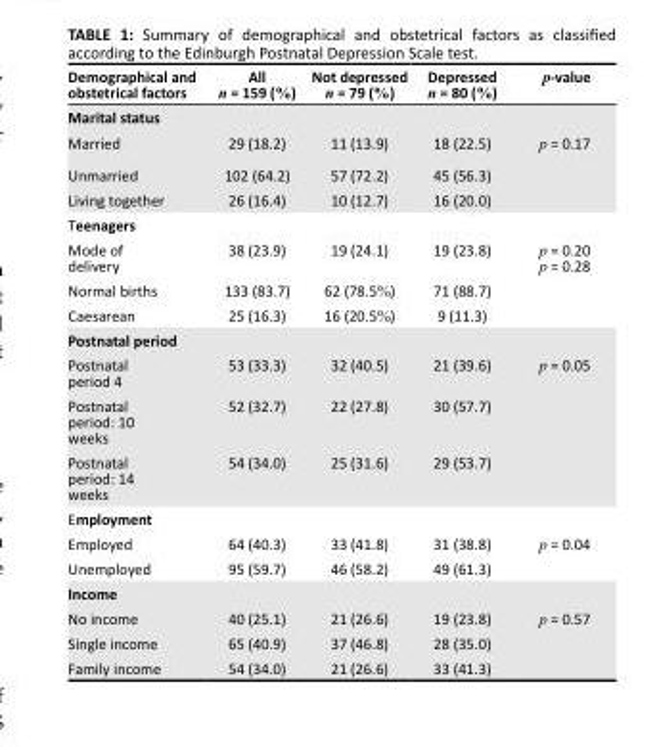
<table><thead><tr><td>Demographical and obstetrical factors</td><td>All n = 159 (%)</td><td>Not depressed n = 79 (%)</td><td>Depressed n = 80 (%)</td><td>p-value</td></tr></thead><tbody><tr><td colspan="5">Marital status</td></tr><tr><td>Married</td><td>29 (18.2)</td><td>11 (13.9)</td><td>18 (22.5)</td><td>p = 0.17</td></tr><tr><td>Unmarried</td><td>102 (64.2)</td><td>57 (72.2)</td><td>45 (56.3)</td><td></td></tr><tr><td>Living together</td><td>26 (16.4)</td><td>10 (12.7)</td><td>16 (20.0)</td><td></td></tr><tr><td colspan="5">Teenagers</td></tr><tr><td>Mode of delivery</td><td>38 (23.9)</td><td>19 (24.1)</td><td>19 (23.8)</td><td>p = 0.20 p = 0.28</td></tr><tr><td>Normal births</td><td>133 (83.7)</td><td>62 (78.5%)</td><td>71 (88.7)</td><td></td></tr><tr><td>Caesarean</td><td>25 (16.3)</td><td>16 (20.5%)</td><td>9 (11.3)</td><td></td></tr><tr><td colspan="5">Postnatal period</td></tr><tr><td>Postnatal period 4</td><td>53 (33.3)</td><td>32 (40.5)</td><td>21 (39.6)</td><td>p = 0.05</td></tr><tr><td>Postnatal period: 10 weeks</td><td>52 (32.7)</td><td>22 (27.8)</td><td>30 (57.7)</td><td></td></tr><tr><td>Postnatal period: 14 weeks</td><td>54 (34.0)</td><td>25 (31.6)</td><td>29 (53.7)</td><td></td></tr><tr><td colspan="5">Employment</td></tr><tr><td>Employed</td><td>64 (40.3)</td><td>33 (41.8)</td><td>31 (38.8)</td><td>p = 0.04</td></tr><tr><td>Unemployed</td><td>95 (59.7)</td><td>46 (58.2)</td><td>49 (61.3)</td><td></td></tr><tr><td colspan="5">Income</td></tr><tr><td>No income</td><td>40 (25.1)</td><td>21 (26.6)</td><td>19 (23.8)</td><td>p = 0.57</td></tr><tr><td>Single income</td><td>65 (40.9)</td><td>37 (46.8)</td><td>28 (35.0)</td><td></td></tr><tr><td>Family income</td><td>54 (34.0)</td><td>21 (26.6)</td><td>33 (41.3)</td><td></td></tr></tbody></table>